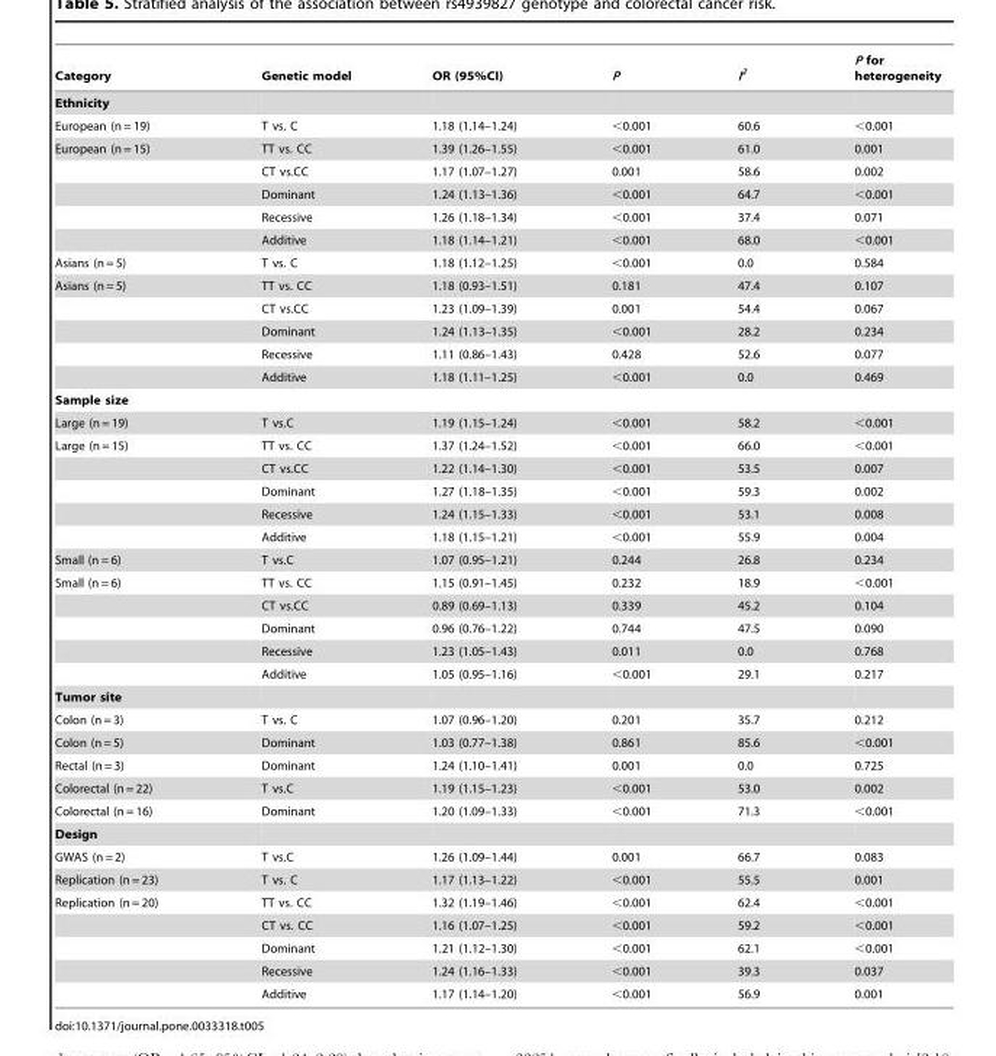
<table><thead><tr><td>Category</td><td>Genetic model</td><td>OR (95%CI)</td><td>P</td><td>I<sup>2</sup></td><td>P for heterogeneity</td></tr></thead><tbody><tr><td colspan="6">Ethnicity</td></tr><tr><td>European (n = 19)</td><td>T vs. C</td><td>1.18 (1.14–1.24)</td><td>&lt;0.001</td><td>60.6</td><td>&lt;0.001</td></tr><tr><td rowspan="5">European (n = 15)</td><td>TT vs. CC</td><td>1.39 (1.26–1.55)</td><td>&lt;0.001</td><td>61.0</td><td>0.001</td></tr><tr><td>CT vs.CC</td><td>1.17 (1.07–1.27)</td><td>0.001</td><td>58.6</td><td>0.002</td></tr><tr><td>Dominant</td><td>1.24 (1.13–1.36)</td><td>&lt;0.001</td><td>64.7</td><td>&lt;0.001</td></tr><tr><td>Recessive</td><td>1.26 (1.18–1.34)</td><td>&lt;0.001</td><td>37.4</td><td>0.071</td></tr><tr><td>Additive</td><td>1.18 (1.14–1.21)</td><td>&lt;0.001</td><td>68.0</td><td>&lt;0.001</td></tr><tr><td>Asians (n = 5)</td><td>T vs. C</td><td>1.18 (1.12–1.25)</td><td>&lt;0.001</td><td>0.0</td><td>0.584</td></tr><tr><td rowspan="5">Asians (n = 5)</td><td>TT vs. CC</td><td>1.18 (0.93–1.51)</td><td>0.181</td><td>47.4</td><td>0.107</td></tr><tr><td>CT vs.CC</td><td>1.23 (1.09–1.39)</td><td>0.001</td><td>54.4</td><td>0.067</td></tr><tr><td>Dominant</td><td>1.24 (1.13–1.35)</td><td>&lt;0.001</td><td>28.2</td><td>0.234</td></tr><tr><td>Recessive</td><td>1.11 (0.86–1.43)</td><td>0.428</td><td>52.6</td><td>0.077</td></tr><tr><td>Additive</td><td>1.18 (1.11–1.25)</td><td>&lt;0.001</td><td>0.0</td><td>0.469</td></tr><tr><td colspan="6">Sample size</td></tr><tr><td>Large (n = 19)</td><td>T vs.C</td><td>1.19 (1.15–1.24)</td><td>&lt;0.001</td><td>58.2</td><td>&lt;0.001</td></tr><tr><td rowspan="5">Large (n = 15)</td><td>TT vs. CC</td><td>1.37 (1.24–1.52)</td><td>&lt;0.001</td><td>66.0</td><td>&lt;0.001</td></tr><tr><td>CT vs.CC</td><td>1.22 (1.14–1.30)</td><td>&lt;0.001</td><td>53.5</td><td>0.007</td></tr><tr><td>Dominant</td><td>1.27 (1.18–1.35)</td><td>&lt;0.001</td><td>59.3</td><td>0.002</td></tr><tr><td>Recessive</td><td>1.24 (1.15–1.33)</td><td>&lt;0.001</td><td>53.1</td><td>0.008</td></tr><tr><td>Additive</td><td>1.18 (1.15–1.21)</td><td>&lt;0.001</td><td>55.9</td><td>0.004</td></tr><tr><td>Small (n = 6)</td><td>T vs.C</td><td>1.07 (0.95–1.21)</td><td>0.244</td><td>26.8</td><td>0.234</td></tr><tr><td rowspan="5">Small (n = 6)</td><td>TT vs. CC</td><td>1.15 (0.91–1.45)</td><td>0.232</td><td>18.9</td><td>&lt;0.001</td></tr><tr><td>CT vs.CC</td><td>0.89 (0.69–1.13)</td><td>0.339</td><td>45.2</td><td>0.104</td></tr><tr><td>Dominant</td><td>0.96 (0.76–1.22)</td><td>0.744</td><td>47.5</td><td>0.090</td></tr><tr><td>Recessive</td><td>1.23 (1.05–1.43)</td><td>0.011</td><td>0.0</td><td>0.768</td></tr><tr><td>Additive</td><td>1.05 (0.95–1.16)</td><td>&lt;0.001</td><td>29.1</td><td>0.217</td></tr><tr><td colspan="6">Tumor site</td></tr><tr><td>Colon (n = 3)</td><td>T vs. C</td><td>1.07 (0.96–1.20)</td><td>0.201</td><td>35.7</td><td>0.212</td></tr><tr><td>Colon (n = 5)</td><td>Dominant</td><td>1.03 (0.77–1.38)</td><td>0.861</td><td>85.6</td><td>&lt;0.001</td></tr><tr><td>Rectal (n = 3)</td><td>Dominant</td><td>1.24 (1.10–1.41)</td><td>0.001</td><td>0.0</td><td>0.725</td></tr><tr><td>Colorectal (n = 22)</td><td>T vs.C</td><td>1.19 (1.15–1.23)</td><td>&lt;0.001</td><td>53.0</td><td>0.002</td></tr><tr><td>Colorectal (n = 16)</td><td>Dominant</td><td>1.20 (1.09–1.33)</td><td>&lt;0.001</td><td>71.3</td><td>&lt;0.001</td></tr><tr><td colspan="6">Design</td></tr><tr><td>GWAS (n = 2)</td><td>T vs.C</td><td>1.26 (1.09–1.44)</td><td>0.001</td><td>66.7</td><td>0.083</td></tr><tr><td>Replication (n = 23)</td><td>T vs. C</td><td>1.17 (1.13–1.22)</td><td>&lt;0.001</td><td>55.5</td><td>0.001</td></tr><tr><td rowspan="5">Replication (n = 20)</td><td>TT vs. CC</td><td>1.32 (1.19–1.46)</td><td>&lt;0.001</td><td>62.4</td><td>&lt;0.001</td></tr><tr><td>CT vs. CC</td><td>1.16 (1.07–1.25)</td><td>&lt;0.001</td><td>59.2</td><td>&lt;0.001</td></tr><tr><td>Dominant</td><td>1.21 (1.12–1.30)</td><td>&lt;0.001</td><td>62.1</td><td>&lt;0.001</td></tr><tr><td>Recessive</td><td>1.24 (1.16–1.33)</td><td>&lt;0.001</td><td>39.3</td><td>0.037</td></tr><tr><td>Additive</td><td>1.17 (1.14–1.20)</td><td>&lt;0.001</td><td>56.9</td><td>0.001</td></tr></tbody></table>